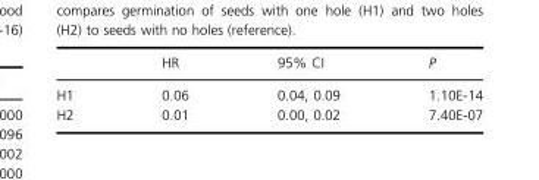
<table><thead><tr><td></td><td>HR</td><td>95% CI</td><td>P</td></tr></thead><tbody><tr><td>H1</td><td>0.06</td><td>0.04, 0.09</td><td>1.10E-14</td></tr><tr><td>H2</td><td>0.01</td><td>0.00, 0.02</td><td>7.40E-07</td></tr></tbody></table>